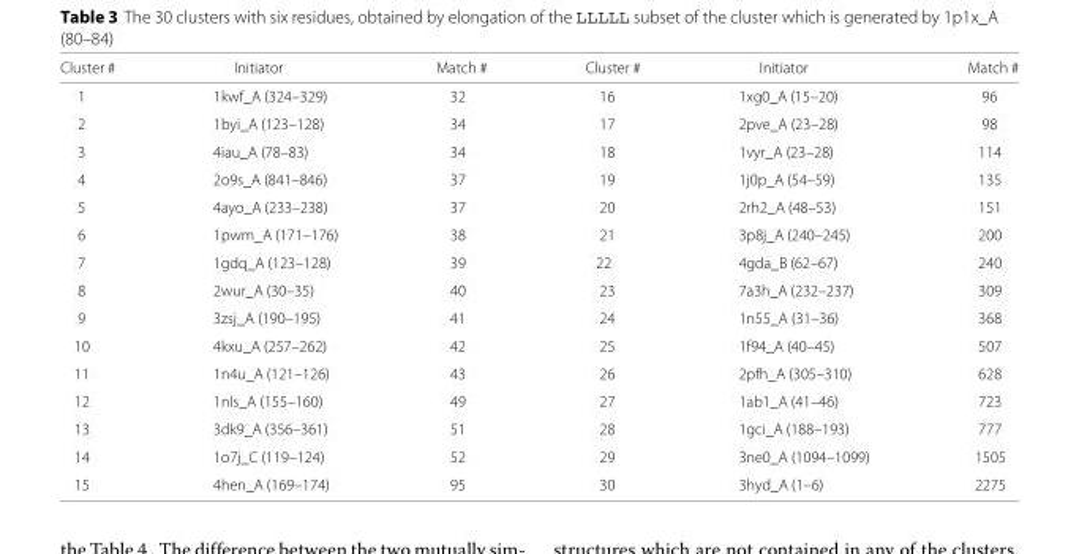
<table><thead><tr><td>Cluster #</td><td>Initiator</td><td>Match #</td><td>Cluster #</td><td>Initiator</td><td>Match #</td></tr></thead><tbody><tr><td>1</td><td>1kwf_A (324–329)</td><td>32</td><td>16</td><td>1xg0_A (15–20)</td><td>96</td></tr><tr><td>2</td><td>1byi_A (123–128)</td><td>34</td><td>17</td><td>2pve_A (23–28)</td><td>98</td></tr><tr><td>3</td><td>4iau_A (78–83)</td><td>34</td><td>18</td><td>1vyr_A (23–28)</td><td>114</td></tr><tr><td>4</td><td>2o9s_A (841–846)</td><td>37</td><td>19</td><td>1j0p_A (54–59)</td><td>135</td></tr><tr><td>5</td><td>4ayo_A (233–238)</td><td>37</td><td>20</td><td>2rh2_A (48–53)</td><td>151</td></tr><tr><td>6</td><td>1pwm_A (171–176)</td><td>38</td><td>21</td><td>3p8j_A (240–245)</td><td>200</td></tr><tr><td>7</td><td>1gdq_A (123–128)</td><td>39</td><td>22</td><td>4gda_B (62–67)</td><td>240</td></tr><tr><td>8</td><td>2wur_A (30–35)</td><td>40</td><td>23</td><td>7a3h_A (232–237)</td><td>309</td></tr><tr><td>9</td><td>3zsj_A (190–195)</td><td>41</td><td>24</td><td>1n55_A (31–36)</td><td>368</td></tr><tr><td>10</td><td>4kxu_A (257–262)</td><td>42</td><td>25</td><td>1f94_A (40–45)</td><td>507</td></tr><tr><td>11</td><td>1n4u_A (121–126)</td><td>43</td><td>26</td><td>2pfh_A (305–310)</td><td>628</td></tr><tr><td>12</td><td>1nls_A (155–160)</td><td>49</td><td>27</td><td>1ab1_A (41–46)</td><td>723</td></tr><tr><td>13</td><td>3dk9_A (356–361)</td><td>51</td><td>28</td><td>1gci_A (188–193)</td><td>777</td></tr><tr><td>14</td><td>1o7j_C (119–124)</td><td>52</td><td>29</td><td>3ne0_A (1094–1099)</td><td>1505</td></tr><tr><td>15</td><td>4hen_A (169–174)</td><td>95</td><td>30</td><td>3hyd_A (1–6)</td><td>2275</td></tr></tbody></table>